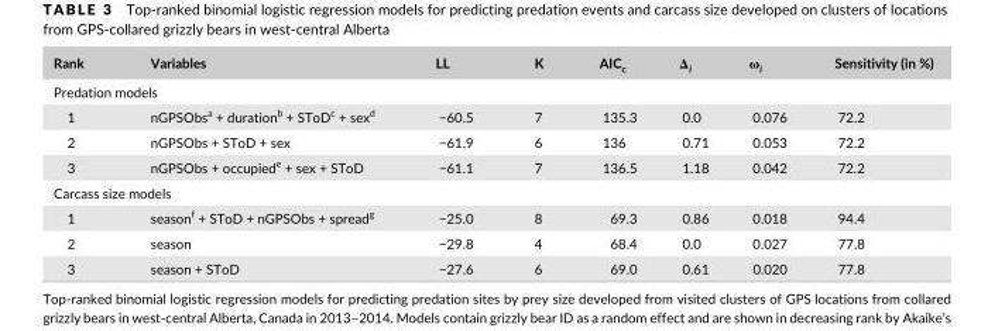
<table><thead><tr><td>Rank</td><td>Variables</td><td>LL</td><td>K</td><td>AIC<sub>c</sub></td><td>Δ<sub>i</sub></td><td>ω<sub>i</sub></td><td>Sensitivity (in %)</td></tr></thead><tbody><tr><td colspan="8">Predation models</td></tr><tr><td>1</td><td>nGPSObs<sup>a</sup> + duration<sup>b</sup> + SToD<sup>c</sup> + sex<sup>d</sup></td><td>−60.5</td><td>7</td><td>135.3</td><td>0.0</td><td>0.076</td><td>72.2</td></tr><tr><td>2</td><td>nGPSObs + SToD + sex</td><td>−61.9</td><td>6</td><td>136</td><td>0.71</td><td>0.053</td><td>72.2</td></tr><tr><td>3</td><td>nGPSObs + occupied<sup>e</sup> + sex + SToD</td><td>−61.1</td><td>7</td><td>136.5</td><td>1.18</td><td>0.042</td><td>72.2</td></tr><tr><td colspan="8">Carcass size models</td></tr><tr><td>1</td><td>season<sup>f</sup> + SToD + nGPSObs + spread<sup>g</sup></td><td>−25.0</td><td>8</td><td>69.3</td><td>0.86</td><td>0.018</td><td>94.4</td></tr><tr><td>2</td><td>season</td><td>−29.8</td><td>4</td><td>68.4</td><td>0.0</td><td>0.027</td><td>77.8</td></tr><tr><td>3</td><td>season + SToD</td><td>−27.6</td><td>6</td><td>69.0</td><td>0.61</td><td>0.020</td><td>77.8</td></tr></tbody></table>